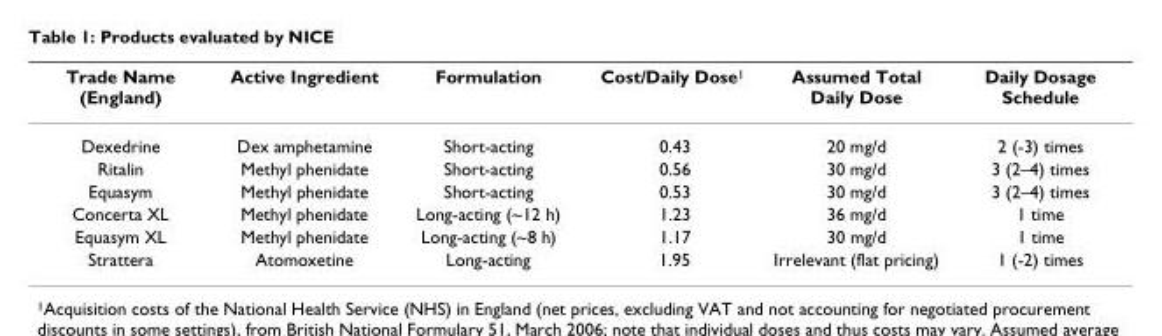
<table><thead><tr><td>Trade Name (England)</td><td>Active Ingredient</td><td>Formulation</td><td>Cost/Daily Dose<sup>1</sup></td><td>Assumed Total Daily Dose</td><td>Daily Dosage Schedule</td></tr></thead><tbody><tr><td>Dexedrine</td><td>Dex amphetamine</td><td>Short-acting</td><td>0.43</td><td>20 mg/d</td><td>2 (-3) times</td></tr><tr><td>Ritalin</td><td>Methyl phenidate</td><td>Short-acting</td><td>0.56</td><td>30 mg/d</td><td>3 (2–4) times</td></tr><tr><td>Equasym</td><td>Methyl phenidate</td><td>Short-acting</td><td>0.53</td><td>30 mg/d</td><td>3 (2–4) times</td></tr><tr><td>Concerta XL</td><td>Methyl phenidate</td><td>Long-acting (~12 h)</td><td>1.23</td><td>36 mg/d</td><td>1 time</td></tr><tr><td>Equasym XL</td><td>Methyl phenidate</td><td>Long-acting (~8 h)</td><td>1.17</td><td>30 mg/d</td><td>1 time</td></tr><tr><td>Strattera</td><td>Atomoxetine</td><td>Long-acting</td><td>1.95</td><td>Irrelevant (flat pricing)</td><td>1 (-2) times</td></tr></tbody></table>